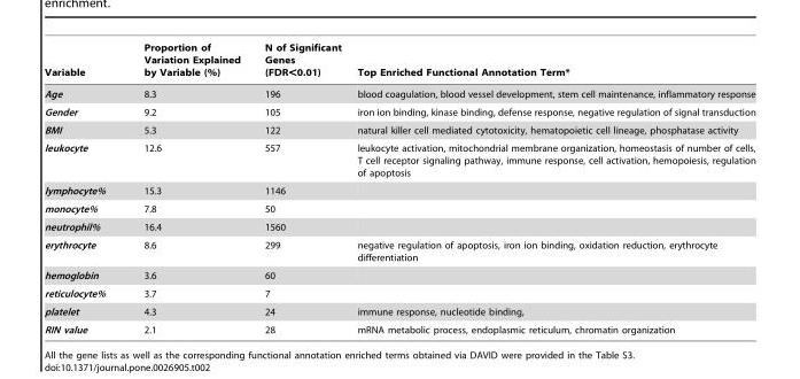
<table><thead><tr><td>Variable</td><td>Proportion of Variation Explained by Variable (%)</td><td>N of Significant Genes (FDR&lt;0.01)</td><td>Top Enriched Functional Annotation Term*</td></tr></thead><tbody><tr><td>Age</td><td>8.3</td><td>196</td><td>blood coagulation, blood vessel development, stem cell maintenance, inflammatory response</td></tr><tr><td>Gender</td><td>9.2</td><td>105</td><td>iron ion binding, kinase binding, defense response, negative regulation of signal transduction</td></tr><tr><td>BMI</td><td>5.3</td><td>122</td><td>natural killer cell mediated cytotoxicity, hematopoietic cell lineage, phosphatase activity</td></tr><tr><td>leukocyte</td><td>12.6</td><td>557</td><td>leukocyte activation, mitochondrial membrane organization, homeostasis of number of cells, T cell receptor signaling pathway, immune response, cell activation, hemopoiesis, regulation of apoptosis</td></tr><tr><td>lymphocyte%</td><td>15.3</td><td>1146</td><td></td></tr><tr><td>monocyte%</td><td>7.8</td><td>50</td><td></td></tr><tr><td>neutrophil%</td><td>16.4</td><td>1560</td><td></td></tr><tr><td>erythrocyte</td><td>8.6</td><td>299</td><td>negative regulation of apoptosis, iron ion binding, oxidation reduction, erythrocyte differentiation</td></tr><tr><td>hemoglobin</td><td>3.6</td><td>60</td><td></td></tr><tr><td>reticulocyte%</td><td>3.7</td><td>7</td><td></td></tr><tr><td>platelet</td><td>4.3</td><td>24</td><td>immune response, nucleotide binding,</td></tr><tr><td>RIN value</td><td>2.1</td><td>28</td><td>mRNA metabolic process, endoplasmic reticulum, chromatin organization</td></tr></tbody></table>